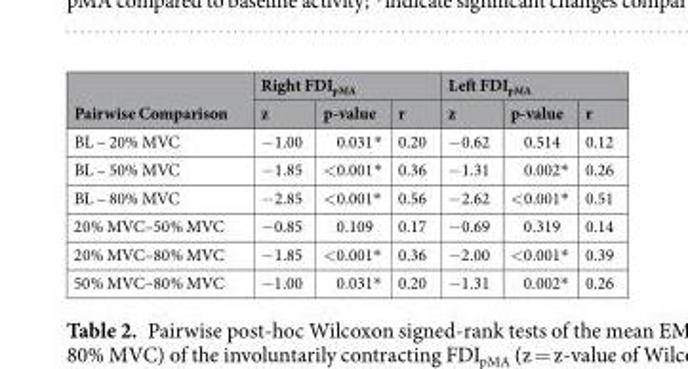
<table><thead><tr><td rowspan="2">Pairwise Comparison</td><td colspan="3">Right FDI<sub>pMA</sub></td><td colspan="3">Left FDI<sub>pMA</sub></td></tr><tr><td>z</td><td>p-value</td><td>r</td><td>z</td><td>p-value</td><td>r</td></tr></thead><tbody><tr><td>BL – 20% MVC</td><td>−1.00</td><td>0.031*</td><td>0.20</td><td>−0.62</td><td>0.514</td><td>0.12</td></tr><tr><td>BL – 50% MVC</td><td>−1.85</td><td>&lt;0.001*</td><td>0.36</td><td>−1.31</td><td>0.002*</td><td>0.26</td></tr><tr><td>BL – 80% MVC</td><td>−2.85</td><td>&lt;0.001*</td><td>0.56</td><td>−2.62</td><td>&lt;0.001*</td><td>0.51</td></tr><tr><td>20% MVC–50% MVC</td><td>−0.85</td><td>0.109</td><td>0.17</td><td>−0.69</td><td>0.319</td><td>0.14</td></tr><tr><td>20% MVC–80% MVC</td><td>−1.85</td><td>&lt;0.001*</td><td>0.36</td><td>−2.00</td><td>&lt;0.001*</td><td>0.39</td></tr><tr><td>50% MVC–80% MVC</td><td>−1.00</td><td>0.031*</td><td>0.20</td><td>−1.31</td><td>0.002*</td><td>0.26</td></tr></tbody></table>